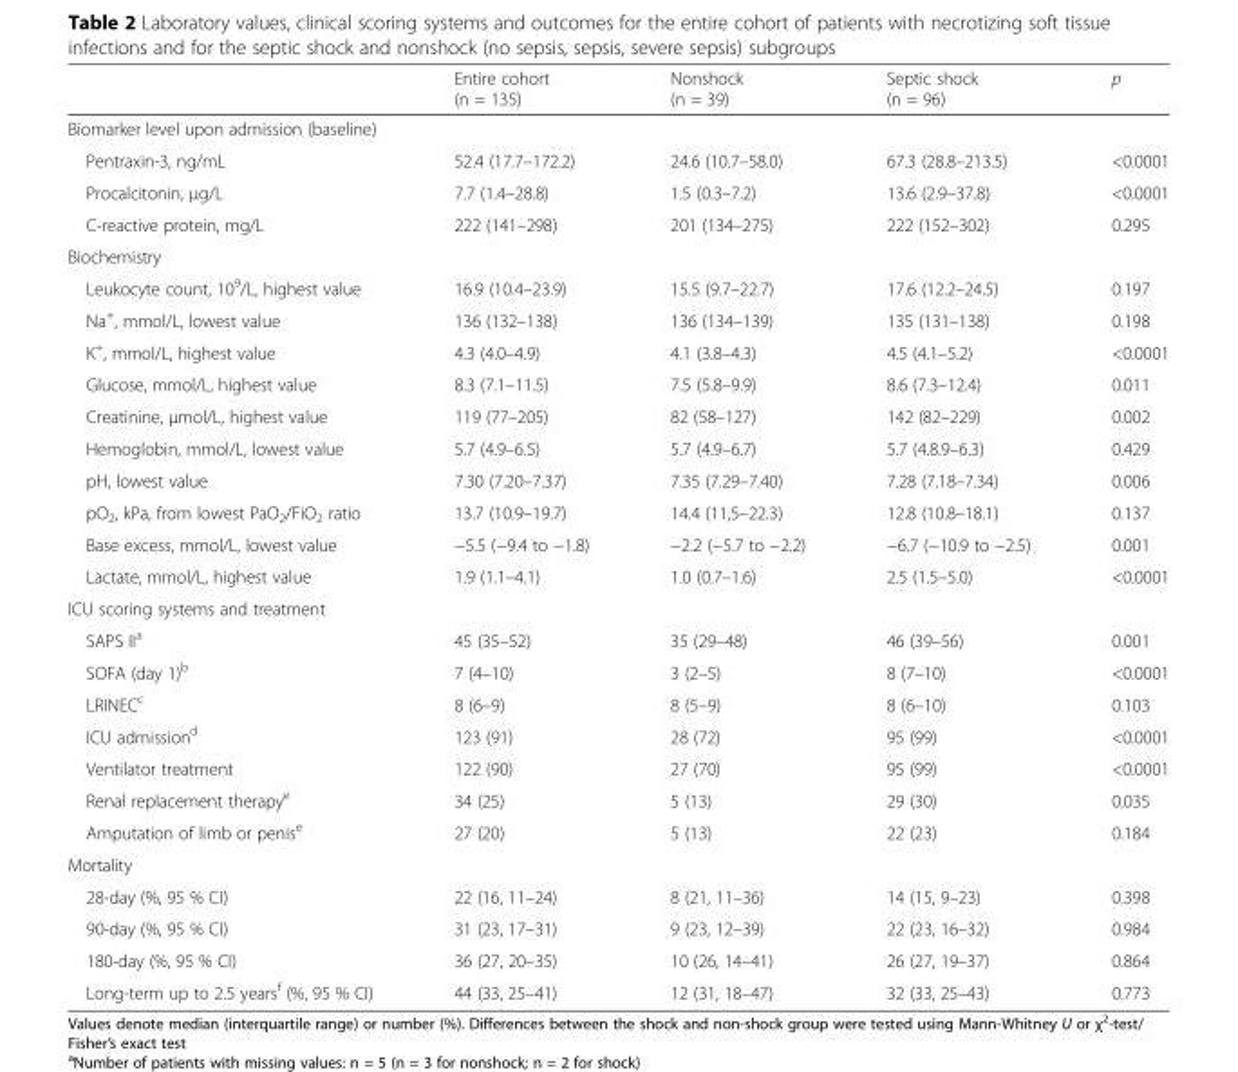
<table><thead><tr><td></td><td>Entire cohort (n = 135)</td><td>Nonshock (n = 39)</td><td>Septic shock (n = 96)</td><td>p</td></tr></thead><tbody><tr><td colspan="5">Biomarker level upon admission (baseline)</td></tr><tr><td>Pentraxin-3, ng/mL</td><td>52.4 (17.7–172.2)</td><td>24.6 (10.7–58.0)</td><td>67.3 (28.8–213.5)</td><td>&lt;0.0001</td></tr><tr><td>Procalcitonin, μg/L</td><td>7.7 (1.4–28.8)</td><td>1.5 (0.3–7.2)</td><td>13.6 (2.9–37.8)</td><td>&lt;0.0001</td></tr><tr><td>C-reactive protein, mg/L</td><td>222 (141–298)</td><td>201 (134–275)</td><td>222 (152–302)</td><td>0.295</td></tr><tr><td colspan="5">Biochemistry</td></tr><tr><td>Leukocyte count, 10<sup>9</sup>/L, highest value</td><td>16.9 (10.4–23.9)</td><td>15.5 (9.7–22.7)</td><td>17.6 (12.2–24.5)</td><td>0.197</td></tr><tr><td>Na<sup>+</sup>, mmol/L, lowest value</td><td>136 (132–138)</td><td>136 (134–139)</td><td>135 (131–138)</td><td>0.198</td></tr><tr><td>K<sup>+</sup>, mmol/L, highest value</td><td>4.3 (4.0–4.9)</td><td>4.1 (3.8–4.3)</td><td>4.5 (4.1–5.2)</td><td>&lt;0.0001</td></tr><tr><td>Glucose, mmol/L, highest value</td><td>8.3 (7.1–11.5)</td><td>7.5 (5.8–9.9)</td><td>8.6 (7.3–12.4)</td><td>0.011</td></tr><tr><td>Creatinine, μmol/L, highest value</td><td>119 (77–205)</td><td>82 (58–127)</td><td>142 (82–229)</td><td>0.002</td></tr><tr><td>Hemoglobin, mmol/L, lowest value</td><td>5.7 (4.9–6.5)</td><td>5.7 (4.9–6.7)</td><td>5.7 (4.8.9–6.3)</td><td>0.429</td></tr><tr><td>pH, lowest value</td><td>7.30 (7.20–7.37)</td><td>7.35 (7.29–7.40)</td><td>7.28 (7.18–7.34)</td><td>0.006</td></tr><tr><td>pO<sub>2</sub>, kPa, from lowest PaO<sub>2</sub>/FiO<sub>2</sub> ratio</td><td>13.7 (10.9–19.7)</td><td>14.4 (11,5–22.3)</td><td>12.8 (10.8–18.1)</td><td>0.137</td></tr><tr><td>Base excess, mmol/L, lowest value</td><td>−5.5 (−9.4 to −1.8)</td><td>−2.2 (−5.7 to −2.2)</td><td>−6.7 (−10.9 to −2.5)</td><td>0.001</td></tr><tr><td>Lactate, mmol/L, highest value</td><td>1.9 (1.1–4.1)</td><td>1.0 (0.7–1.6)</td><td>2.5 (1.5–5.0)</td><td>&lt;0.0001</td></tr><tr><td colspan="5">ICU scoring systems and treatment</td></tr><tr><td>SAPS II<sup>a</sup></td><td>45 (35–52)</td><td>35 (29–48)</td><td>46 (39–56)</td><td>0.001</td></tr><tr><td>SOFA (day 1)<sup>b</sup></td><td>7 (4–10)</td><td>3 (2–5)</td><td>8 (7–10)</td><td>&lt;0.0001</td></tr><tr><td>LRINEC<sup>c</sup></td><td>8 (6–9)</td><td>8 (5–9)</td><td>8 (6–10)</td><td>0.103</td></tr><tr><td>ICU admission<sup>d</sup></td><td>123 (91)</td><td>28 (72)</td><td>95 (99)</td><td>&lt;0.0001</td></tr><tr><td>Ventilator treatment</td><td>122 (90)</td><td>27 (70)</td><td>95 (99)</td><td>&lt;0.0001</td></tr><tr><td>Renal replacement therapy<sup>e</sup></td><td>34 (25)</td><td>5 (13)</td><td>29 (30)</td><td>0.035</td></tr><tr><td>Amputation of limb or penis<sup>e</sup></td><td>27 (20)</td><td>5 (13)</td><td>22 (23)</td><td>0.184</td></tr><tr><td colspan="5">Mortality</td></tr><tr><td>28-day (%, 95 % CI)</td><td>22 (16, 11–24)</td><td>8 (21, 11–36)</td><td>14 (15, 9–23)</td><td>0.398</td></tr><tr><td>90-day (%, 95 % CI)</td><td>31 (23, 17–31)</td><td>9 (23, 12–39)</td><td>22 (23, 16–32)</td><td>0.984</td></tr><tr><td>180-day (%, 95 % CI)</td><td>36 (27, 20–35)</td><td>10 (26, 14–41)</td><td>26 (27, 19–37)</td><td>0.864</td></tr><tr><td>Long-term up to 2.5 years<sup>f</sup> (%, 95 % CI)</td><td>44 (33, 25–41)</td><td>12 (31, 18–47)</td><td>32 (33, 25–43)</td><td>0.773</td></tr></tbody></table>